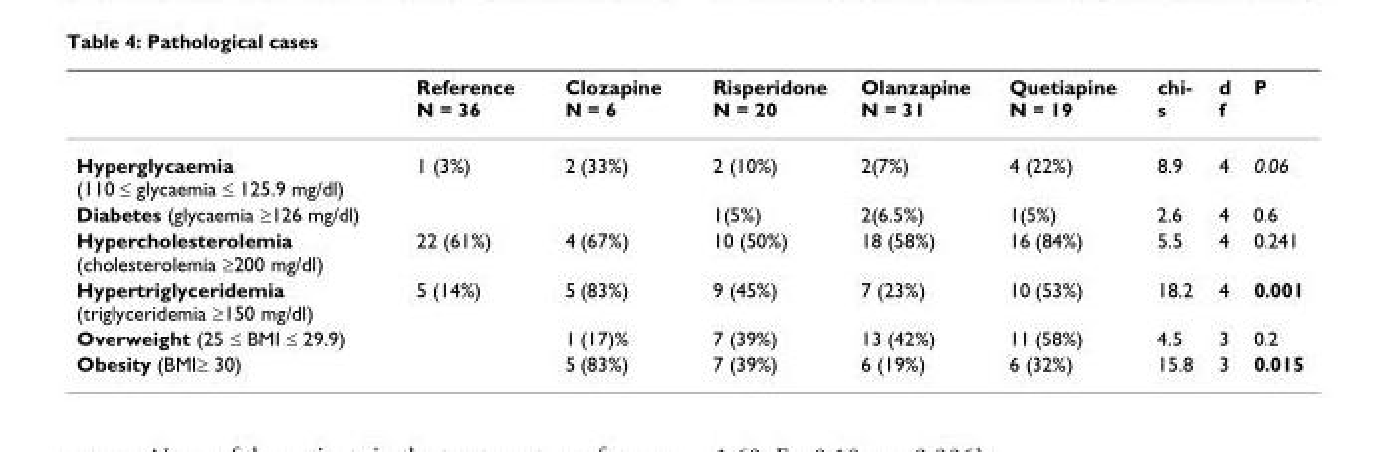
<table><thead><tr><td></td><td>Reference N = 36</td><td>Clozapine N = 6</td><td>Risperidone N = 20</td><td>Olanzapine N = 31</td><td>Quetiapine N = 19</td><td>chi- s</td><td>d f</td><td>P</td></tr></thead><tbody><tr><td>Hyperglycaemia (110 ≤ glycaemia ≤ 125.9 mg/dl)</td><td>1 (3%)</td><td>2 (33%)</td><td>2 (10%)</td><td>2(7%)</td><td>4 (22%)</td><td>8.9</td><td>4</td><td>0.06</td></tr><tr><td>Diabetes (glycaemia ≥126 mg/dl)</td><td></td><td></td><td>1(5%)</td><td>2(6.5%)</td><td>1(5%)</td><td>2.6</td><td>4</td><td>0.6</td></tr><tr><td>Hypercholesterolemia (cholesterolemia ≥200 mg/dl)</td><td>22 (61%)</td><td>4 (67%)</td><td>10 (50%)</td><td>18 (58%)</td><td>16 (84%)</td><td>5.5</td><td>4</td><td>0.241</td></tr><tr><td>Hypertriglyceridemia (triglyceridemia ≥150 mg/dl)</td><td>5 (14%)</td><td>5 (83%)</td><td>9 (45%)</td><td>7 (23%)</td><td>10 (53%)</td><td>18.2</td><td>4</td><td>0.001</td></tr><tr><td>Overweight (25 ≤ BMI ≤ 29.9)</td><td></td><td>1 (17)%</td><td>7 (39%)</td><td>13 (42%)</td><td>11 (58%)</td><td>4.5</td><td>3</td><td>0.2</td></tr><tr><td>Obesity (BMI≥ 30)</td><td></td><td>5 (83%)</td><td>7 (39%)</td><td>6 (19%)</td><td>6 (32%)</td><td>15.8</td><td>3</td><td>0.015</td></tr></tbody></table>